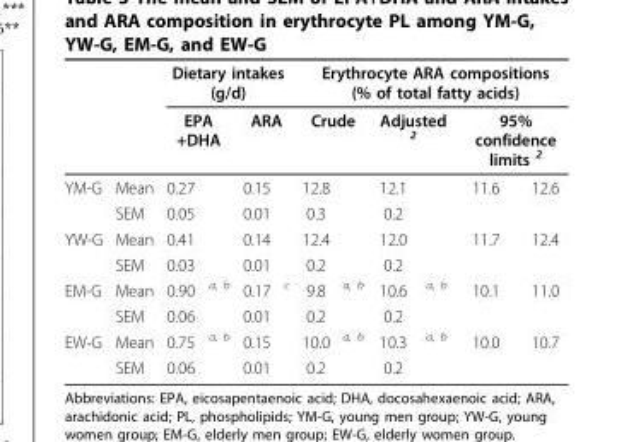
<table><thead><tr><td rowspan="3">YM-G</td><td rowspan="3">Mean</td><td colspan="4">Dietary intakes (g/d)</td><td colspan="6">Erythrocyte ARA compositions (% of total fatty acids)</td></tr><tr><td colspan="2">EPA +DHA</td><td colspan="2">ARA</td><td colspan="2">Crude</td><td colspan="2">Adjusted <sup>2</sup></td><td colspan="2">95% confidence limits <sup>2</sup></td></tr><tr><td>0.27</td><td></td><td>0.15</td><td></td><td>12.8</td><td></td><td>12.1</td><td></td><td>11.6</td><td>12.6</td></tr></thead><tbody><tr><td></td><td>SEM</td><td>0.05</td><td></td><td>0.01</td><td></td><td>0.3</td><td></td><td>0.2</td><td></td><td></td><td></td></tr><tr><td rowspan="2">YW-G</td><td>Mean</td><td>0.41</td><td></td><td>0.14</td><td></td><td>12.4</td><td></td><td>12.0</td><td></td><td>11.7</td><td>12.4</td></tr><tr><td>SEM</td><td>0.03</td><td></td><td>0.01</td><td></td><td>0.2</td><td></td><td>0.2</td><td></td><td></td><td></td></tr><tr><td rowspan="2">EM-G</td><td>Mean</td><td>0.90</td><td><sup>a, b</sup></td><td>0.17</td><td><sup>c</sup></td><td>9.8</td><td><sup>a, b</sup></td><td>10.6</td><td><sup>a, b</sup></td><td>10.1</td><td>11.0</td></tr><tr><td>SEM</td><td>0.06</td><td></td><td>0.01</td><td></td><td>0.2</td><td></td><td>0.2</td><td></td><td></td><td></td></tr><tr><td rowspan="2">EW-G</td><td>Mean</td><td>0.75</td><td><sup>a, b</sup></td><td>0.15</td><td></td><td>10.0</td><td><sup>a, b</sup></td><td>10.3</td><td><sup>a, b</sup></td><td>10.0</td><td>10.7</td></tr><tr><td>SEM</td><td>0.06</td><td></td><td>0.01</td><td></td><td>0.2</td><td></td><td>0.2</td><td></td><td></td><td></td></tr></tbody></table>